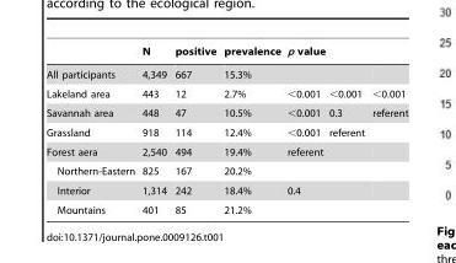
<table><thead><tr><td rowspan="2">All participants</td><td rowspan="2">N 4,349</td><td rowspan="2">positive 667</td><td rowspan="2">prevalence 15.3%</td><td colspan="3">p value</td></tr><tr><td></td><td></td><td></td></tr></thead><tbody><tr><td>Lakeland area</td><td>443</td><td>12</td><td>2.7%</td><td>&lt;0.001</td><td>&lt;0.001</td><td>&lt;0.001</td></tr><tr><td>Savannah area</td><td>448</td><td>47</td><td>10.5%</td><td>&lt;0.001</td><td>0.3</td><td>referent</td></tr><tr><td>Grassland</td><td>918</td><td>114</td><td>12.4%</td><td>&lt;0.001</td><td>referent</td><td></td></tr><tr><td>Forest aera</td><td>2,540</td><td>494</td><td>19.4%</td><td>referent</td><td></td><td></td></tr><tr><td>Northern-Eastern</td><td>825</td><td>167</td><td>20.2%</td><td></td><td></td><td></td></tr><tr><td>Interior</td><td>1,314</td><td>242</td><td>18.4%</td><td>0.4</td><td></td><td></td></tr><tr><td>Mountains</td><td>401</td><td>85</td><td>21.2%</td><td></td><td></td><td></td></tr></tbody></table>